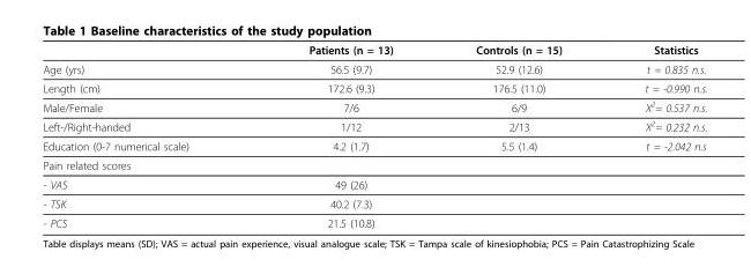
<table><thead><tr><td></td><td>Patients (n = 13)</td><td>Controls (n = 15)</td><td>Statistics</td></tr></thead><tbody><tr><td>Age (yrs)</td><td>56.5 (9.7)</td><td>52.9 (12.6)</td><td>t = 0.835 n.s.</td></tr><tr><td>Length (cm)</td><td>172.6 (9.3)</td><td>176.5 (11.0)</td><td>t = -0.990 n.s.</td></tr><tr><td>Male/Female</td><td>7/6</td><td>6/9</td><td>Χ<sup>2</sup>= 0.537 n.s.</td></tr><tr><td>Left-/Right-handed</td><td>1/12</td><td>2/13</td><td>Χ<sup>2</sup>= 0.232 n.s.</td></tr><tr><td>Education (0-7 numerical scale)</td><td>4.2 (1.7)</td><td>5.5 (1.4)</td><td>t = -2.042 n.s</td></tr><tr><td colspan="4">Pain related scores</td></tr><tr><td>- VAS</td><td>49 (26)</td><td></td><td></td></tr><tr><td>- TSK</td><td>40.2 (7.3)</td><td></td><td></td></tr><tr><td>- PCS</td><td>21.5 (10.8)</td><td></td><td></td></tr></tbody></table>